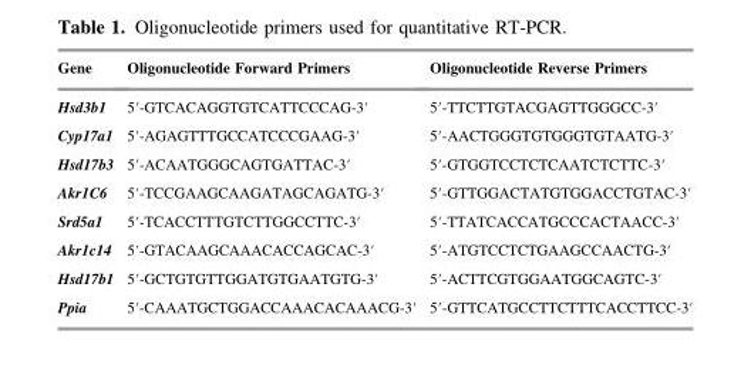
<table><thead><tr><td>Gene</td><td>Oligonucleotide Forward Primers</td><td>Oligonucleotide Reverse Primers</td></tr></thead><tbody><tr><td>Hsd3b1</td><td>5′-GTCACAGGTGTCATTCCCAG-3′</td><td>5′-TTCTTGTACGAGTTGGGCC-3′</td></tr><tr><td>Cyp17a1</td><td>5′-AGAGTTTGCCATCCCGAAG-3′</td><td>5′-AACTGGGTGTGGGTGTAATG-3′</td></tr><tr><td>Hsd17b3</td><td>5′-ACAATGGGCAGTGATTAC-3′</td><td>5′-GTGGTCCTCTCAATCTCTTC-3′</td></tr><tr><td>Akr1C6</td><td>5′-TCCGAAGCAAGATAGCAGATG-3′</td><td>5′-GTTGGACTATGTGGACCTGTAC-3′</td></tr><tr><td>Srd5a1</td><td>5′-TCACCTTTGTCTTGGCCTTC-3′</td><td>5′-TTATCACCATGCCCACTAACC-3′</td></tr><tr><td>Akr1c14</td><td>5′-GTACAAGCAAACACCAGCAC-3′</td><td>5′-ATGTCCTCTGAAGCCAACTG-3′</td></tr><tr><td>Hsd17b1</td><td>5′-GCTGTGTTGGATGTGAATGTG-3′</td><td>5′-ACTTCGTGGAATGGCAGTC-3′</td></tr><tr><td>Ppia</td><td>5′-CAAATGCTGGACCAAACACAAACG-3′</td><td>5′-GTTCATGCCTTCTTTCACCTTCC-3′</td></tr></tbody></table>